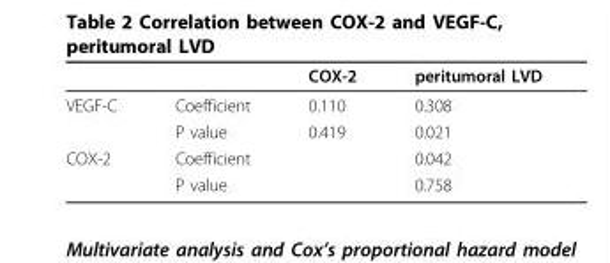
<table><thead><tr><td></td><td></td><td>COX-2</td><td>peritumoral LVD</td></tr></thead><tbody><tr><td rowspan="2">VEGF-C</td><td>Coefficient</td><td>0.110</td><td>0.308</td></tr><tr><td>P value</td><td>0.419</td><td>0.021</td></tr><tr><td rowspan="2">COX-2</td><td>Coefficient</td><td></td><td>0.042</td></tr><tr><td>P value</td><td></td><td>0.758</td></tr></tbody></table>